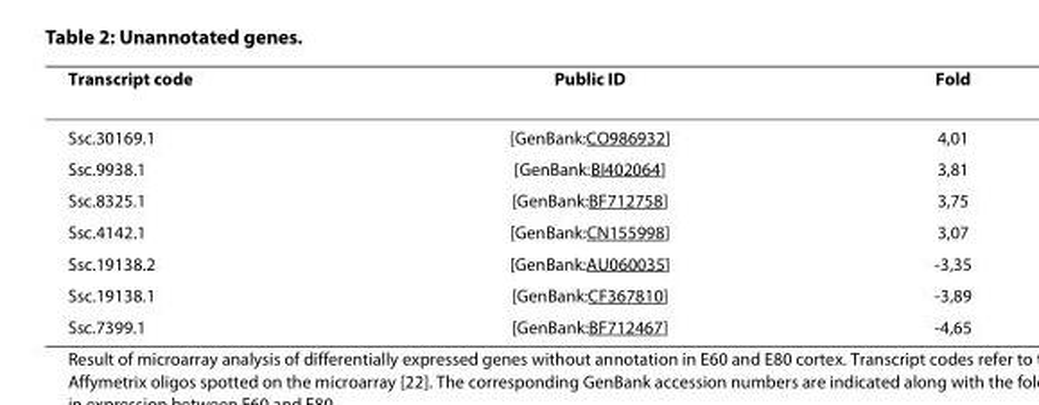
<table><thead><tr><td>Transcript code</td><td>Public ID</td><td>Fold</td></tr></thead><tbody><tr><td>Ssc.30169.1</td><td>[GenBank:CO986932]</td><td>4,01</td></tr><tr><td>Ssc.9938.1</td><td>[GenBank:BI402064]</td><td>3,81</td></tr><tr><td>Ssc.8325.1</td><td>[GenBank:BF712758]</td><td>3,75</td></tr><tr><td>Ssc.4142.1</td><td>[GenBank:CN155998]</td><td>3,07</td></tr><tr><td>Ssc.19138.2</td><td>[GenBank:AU060035]</td><td>-3,35</td></tr><tr><td>Ssc.19138.1</td><td>[GenBank:CF367810]</td><td>-3,89</td></tr><tr><td>Ssc.7399.1</td><td>[GenBank:BF712467]</td><td>-4,65</td></tr></tbody></table>